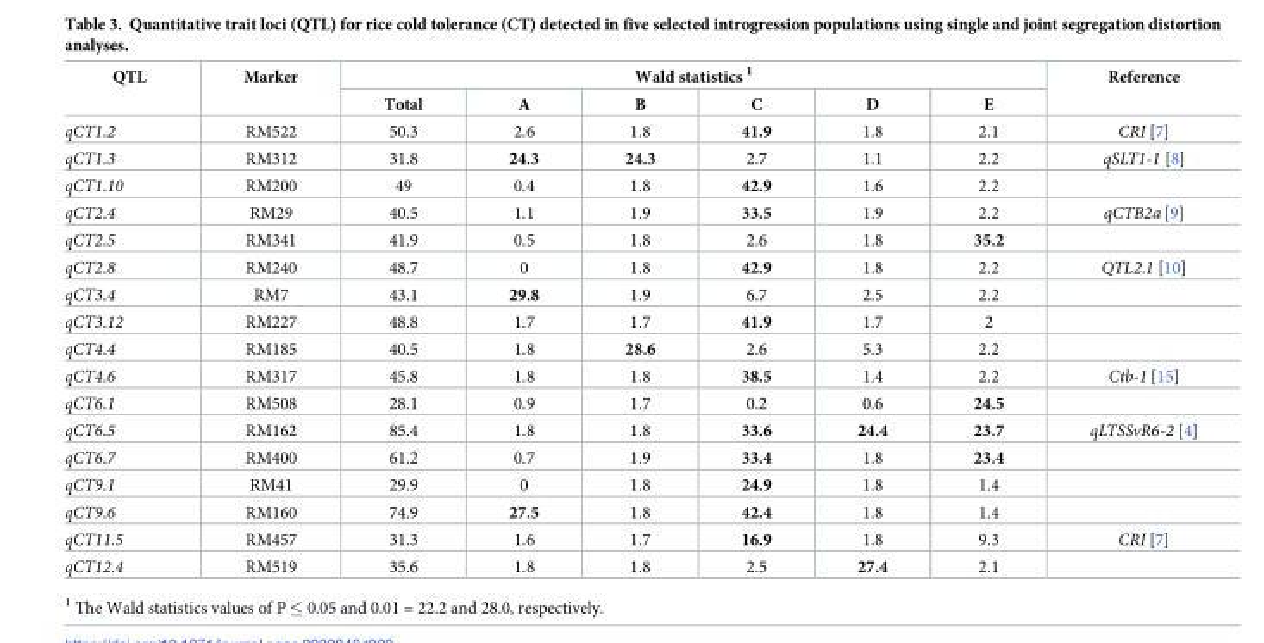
<table><thead><tr><td rowspan="2">QTL</td><td rowspan="2">Marker</td><td colspan="6">Wald statistics <sup>1</sup></td><td rowspan="2">Reference</td></tr><tr><td>Total</td><td>A</td><td>B</td><td>C</td><td>D</td><td>E</td></tr></thead><tbody><tr><td>qCT1.2</td><td>RM522</td><td>50.3</td><td>2.6</td><td>1.8</td><td>41.9</td><td>1.8</td><td>2.1</td><td>CRI [7]</td></tr><tr><td>qCT1.3</td><td>RM312</td><td>31.8</td><td>24.3</td><td>24.3</td><td>2.7</td><td>1.1</td><td>2.2</td><td>qSLT1-1 [8]</td></tr><tr><td>qCT1.10</td><td>RM200</td><td>49</td><td>0.4</td><td>1.8</td><td>42.9</td><td>1.6</td><td>2.2</td><td></td></tr><tr><td>qCT2.4</td><td>RM29</td><td>40.5</td><td>1.1</td><td>1.9</td><td>33.5</td><td>1.9</td><td>2.2</td><td>qCTB2a [9]</td></tr><tr><td>qCT2.5</td><td>RM341</td><td>41.9</td><td>0.5</td><td>1.8</td><td>2.6</td><td>1.8</td><td>35.2</td><td></td></tr><tr><td>qCT2.8</td><td>RM240</td><td>48.7</td><td>0</td><td>1.8</td><td>42.9</td><td>1.8</td><td>2.2</td><td>QTL2.1 [10]</td></tr><tr><td>qCT3.4</td><td>RM7</td><td>43.1</td><td>29.8</td><td>1.9</td><td>6.7</td><td>2.5</td><td>2.2</td><td></td></tr><tr><td>qCT3.12</td><td>RM227</td><td>48.8</td><td>1.7</td><td>1.7</td><td>41.9</td><td>1.7</td><td>2</td><td></td></tr><tr><td>qCT4.4</td><td>RM185</td><td>40.5</td><td>1.8</td><td>28.6</td><td>2.6</td><td>5.3</td><td>2.2</td><td></td></tr><tr><td>qCT4.6</td><td>RM317</td><td>45.8</td><td>1.8</td><td>1.8</td><td>38.5</td><td>1.4</td><td>2.2</td><td>Ctb-1 [15]</td></tr><tr><td>qCT6.1</td><td>RM508</td><td>28.1</td><td>0.9</td><td>1.7</td><td>0.2</td><td>0.6</td><td>24.5</td><td></td></tr><tr><td>qCT6.5</td><td>RM162</td><td>85.4</td><td>1.8</td><td>1.8</td><td>33.6</td><td>24.4</td><td>23.7</td><td>qLTSSvR6-2 [4]</td></tr><tr><td>qCT6.7</td><td>RM400</td><td>61.2</td><td>0.7</td><td>1.9</td><td>33.4</td><td>1.8</td><td>23.4</td><td></td></tr><tr><td>qCT9.1</td><td>RM41</td><td>29.9</td><td>0</td><td>1.8</td><td>24.9</td><td>1.8</td><td>1.4</td><td></td></tr><tr><td>qCT9.6</td><td>RM160</td><td>74.9</td><td>27.5</td><td>1.8</td><td>42.4</td><td>1.8</td><td>1.4</td><td></td></tr><tr><td>qCT11.5</td><td>RM457</td><td>31.3</td><td>1.6</td><td>1.7</td><td>16.9</td><td>1.8</td><td>9.3</td><td>CRI [7]</td></tr><tr><td>qCT12.4</td><td>RM519</td><td>35.6</td><td>1.8</td><td>1.8</td><td>2.5</td><td>27.4</td><td>2.1</td><td></td></tr></tbody></table>